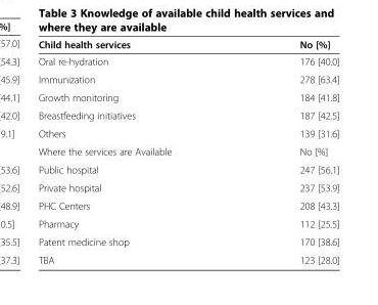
<table><thead><tr><td>Child health services</td><td>No [%]</td></tr></thead><tbody><tr><td>Oral re-hydration</td><td>176 [40.0]</td></tr><tr><td>Immunization</td><td>278 [63.4]</td></tr><tr><td>Growth monitoring</td><td>184 [41.8]</td></tr><tr><td>Breastfeeding initiatives</td><td>187 [42.5]</td></tr><tr><td>Others</td><td>139 [31.6]</td></tr><tr><td>Where the services are Available</td><td>No [%]</td></tr><tr><td>Public hospital</td><td>247 [56.1]</td></tr><tr><td>Private hospital</td><td>237 [53.9]</td></tr><tr><td>PHC Centers</td><td>208 [43.3]</td></tr><tr><td>Pharmacy</td><td>112 [25.5]</td></tr><tr><td>Patent medicine shop</td><td>170 [38.6]</td></tr><tr><td>TBA</td><td>123 [28.0]</td></tr></tbody></table>